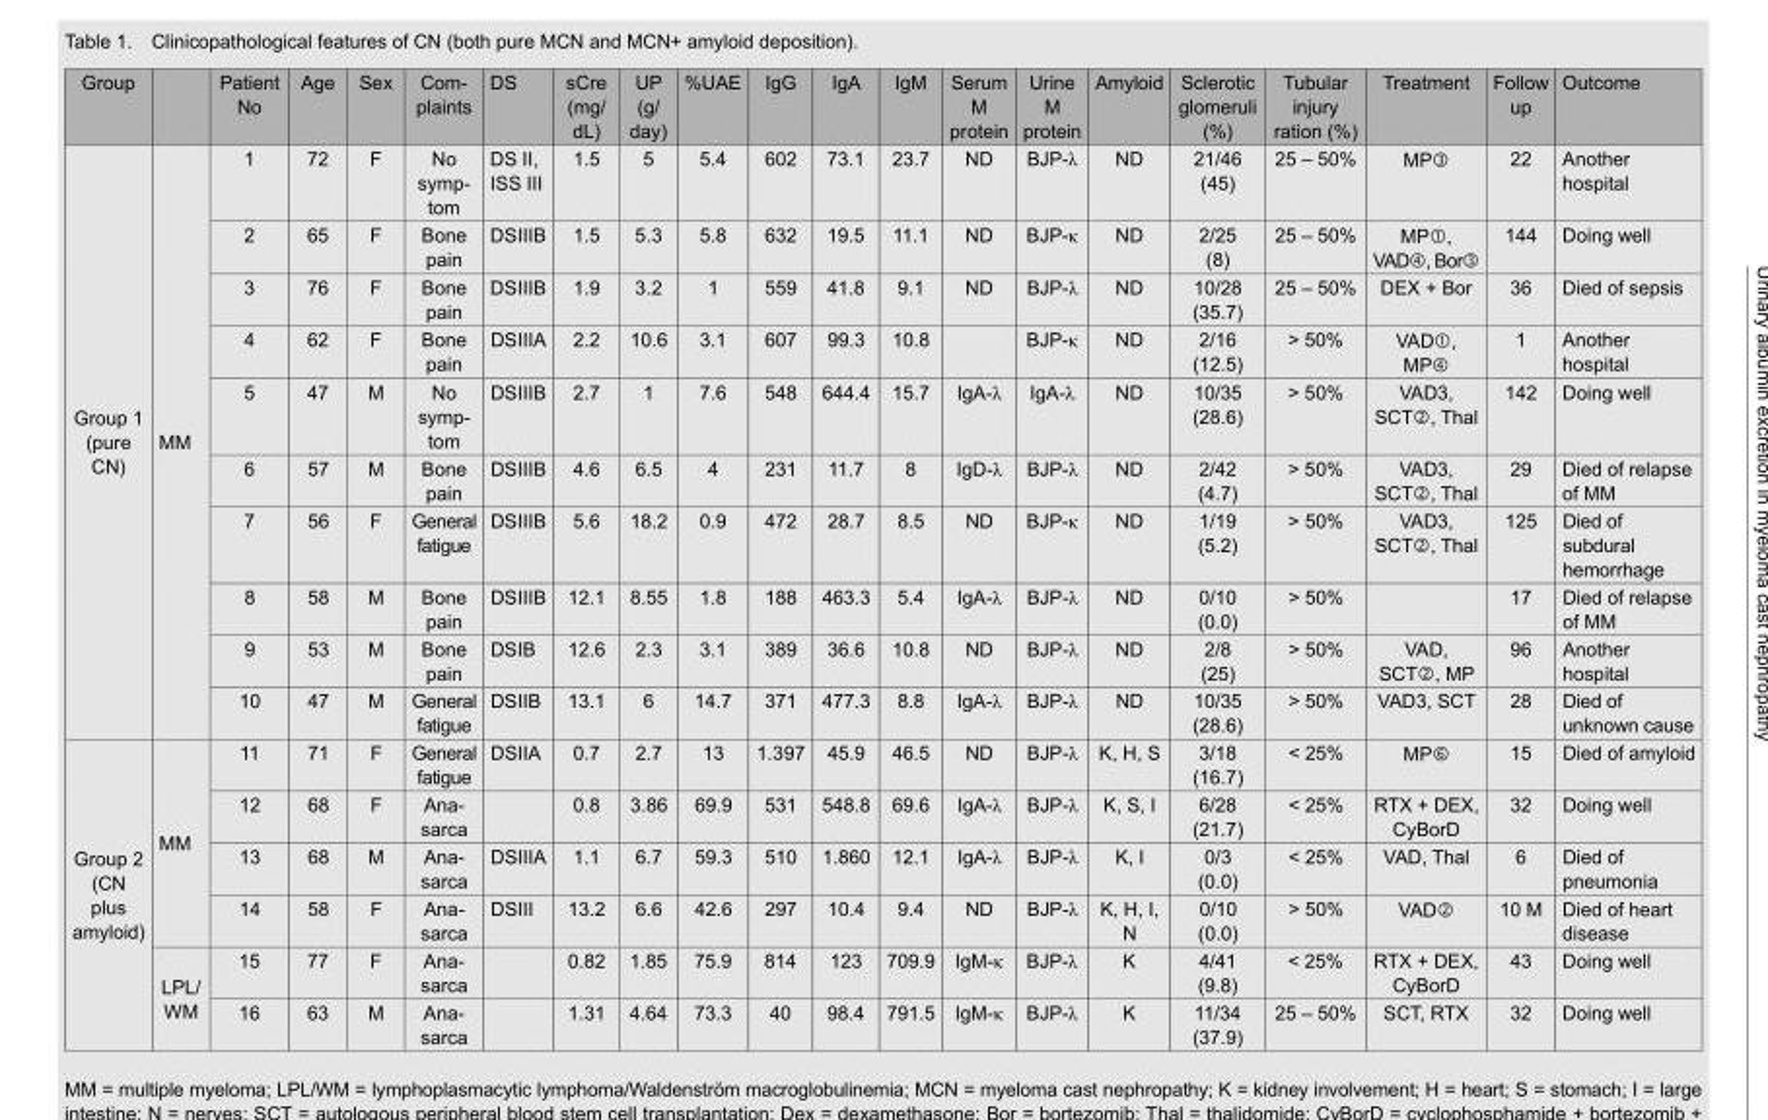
<table><thead><tr><td>Group</td><td></td><td>Patient No</td><td>Age</td><td>Sex</td><td>Com- plaints</td><td>DS</td><td>sCre (mg/ dL)</td><td>UP (g/ day)</td><td>%UAE</td><td>IgG</td><td>IgA</td><td>IgM</td><td>Serum M protein</td><td>Urine M protein</td><td>Amyloid</td><td>Sclerotic glomeruli (%)</td><td>Tubular injury ration (%)</td><td>Treatment</td><td>Follow up</td><td>Outcome</td></tr></thead><tbody><tr><td rowspan="10">Group 1 (pure CN)</td><td rowspan="10">MM</td><td>1</td><td>72</td><td>F</td><td>No symp- tom</td><td>DS II, ISS III</td><td>1.5</td><td>5</td><td>5.4</td><td>602</td><td>73.1</td><td>23.7</td><td>ND</td><td>BJP-λ</td><td>ND</td><td>21/46 (45)</td><td>25 – 50%</td><td>MP</td><td>22</td><td>Another hospital</td></tr><tr><td>2</td><td>65</td><td>F</td><td>Bone pain</td><td>DSIIIB</td><td>1.5</td><td>5.3</td><td>5.8</td><td>632</td><td>19.5</td><td>11.1</td><td>ND</td><td>BJP-κ</td><td>ND</td><td>2/25 (8)</td><td>25 – 50%</td><td>MP, VAD, Bor</td><td>144</td><td>Doing well</td></tr><tr><td>3</td><td>76</td><td>F</td><td>Bone pain</td><td>DSIIIB</td><td>1.9</td><td>3.2</td><td>1</td><td>559</td><td>41.8</td><td>9.1</td><td>ND</td><td>BJP-λ</td><td>ND</td><td>10/28 (35.7)</td><td>25 – 50%</td><td>DEX + Bor</td><td>36</td><td>Died of sepsis</td></tr><tr><td>4</td><td>62</td><td>F</td><td>Bone pain</td><td>DSIIIA</td><td>2.2</td><td>10.6</td><td>3.1</td><td>607</td><td>99.3</td><td>10.8</td><td></td><td>BJP-κ</td><td>ND</td><td>2/16 (12.5)</td><td>&gt; 50%</td><td>VAD, MP</td><td>1</td><td>Another hospital</td></tr><tr><td>5</td><td>47</td><td>M</td><td>No symp- tom</td><td>DSIIIB</td><td>2.7</td><td>1</td><td>7.6</td><td>548</td><td>644.4</td><td>15.7</td><td>IgA-λ</td><td>IgA-λ</td><td>ND</td><td>10/35 (28.6)</td><td>&gt; 50%</td><td>VAD3, SCT, Thal</td><td>142</td><td>Doing well</td></tr><tr><td>6</td><td>57</td><td>M</td><td>Bone pain</td><td>DSIIIB</td><td>4.6</td><td>6.5</td><td>4</td><td>231</td><td>11.7</td><td>8</td><td>IgD-λ</td><td>BJP-λ</td><td>ND</td><td>2/42 (4.7)</td><td>&gt; 50%</td><td>VAD3, SCT, Thal</td><td>29</td><td>Died of relapse of MM</td></tr><tr><td>7</td><td>56</td><td>F</td><td>General fatigue</td><td>DSIIIB</td><td>5.6</td><td>18.2</td><td>0.9</td><td>472</td><td>28.7</td><td>8.5</td><td>ND</td><td>BJP-κ</td><td>ND</td><td>1/19 (5.2)</td><td>&gt; 50%</td><td>VAD3, SCT, Thal</td><td>125</td><td>Died of subdural hemorrhage</td></tr><tr><td>8</td><td>58</td><td>M</td><td>Bone pain</td><td>DSIIIB</td><td>12.1</td><td>8.55</td><td>1.8</td><td>188</td><td>463.3</td><td>5.4</td><td>IgA-λ</td><td>BJP-λ</td><td>ND</td><td>0/10 (0.0)</td><td>&gt; 50%</td><td></td><td>17</td><td>Died of relapse of MM</td></tr><tr><td>9</td><td>53</td><td>M</td><td>Bone pain</td><td>DSIB</td><td>12.6</td><td>2.3</td><td>3.1</td><td>389</td><td>36.6</td><td>10.8</td><td>ND</td><td>BJP-λ</td><td>ND</td><td>2/8 (25)</td><td>&gt; 50%</td><td>VAD, SCT, MP</td><td>96</td><td>Another hospital</td></tr><tr><td>10</td><td>47</td><td>M</td><td>General fatigue</td><td>DSIIB</td><td>13.1</td><td>6</td><td>14.7</td><td>371</td><td>477.3</td><td>8.8</td><td>IgA-λ</td><td>BJP-λ</td><td>ND</td><td>10/35 (28.6)</td><td>&gt; 50%</td><td>VAD3, SCT</td><td>28</td><td>Died of unknown cause</td></tr><tr><td rowspan="6">Group 2 (CN plus amyloid)</td><td rowspan="4">MM</td><td>11</td><td>71</td><td>F</td><td>General fatigue</td><td>DSIIA</td><td>0.7</td><td>2.7</td><td>13</td><td>1.397</td><td>45.9</td><td>46.5</td><td>ND</td><td>BJP-λ</td><td>K, H, S</td><td>3/18 (16.7)</td><td>&lt; 25%</td><td>MP</td><td>15</td><td>Died of amyloid</td></tr><tr><td>12</td><td>68</td><td>F</td><td>Ana- sarca</td><td></td><td>0.8</td><td>3.86</td><td>69.9</td><td>531</td><td>548.8</td><td>69.6</td><td>IgA-λ</td><td>BJP-λ</td><td>K, S, I</td><td>6/28 (21.7)</td><td>&lt; 25%</td><td>RTX + DEX, CyBorD</td><td>32</td><td>Doing well</td></tr><tr><td>13</td><td>68</td><td>M</td><td>Ana- sarca</td><td>DSIIIA</td><td>1.1</td><td>6.7</td><td>59.3</td><td>510</td><td>1.860</td><td>12.1</td><td>IgA-λ</td><td>BJP-λ</td><td>K, I</td><td>0/3 (0.0)</td><td>&lt; 25%</td><td>VAD, Thal</td><td>6</td><td>Died of pneumonia</td></tr><tr><td>14</td><td>58</td><td>F</td><td>Ana- sarca</td><td>DSIII</td><td>13.2</td><td>6.6</td><td>42.6</td><td>297</td><td>10.4</td><td>9.4</td><td>ND</td><td>BJP-λ</td><td>K, H, I, N</td><td>0/10 (0.0)</td><td>&gt; 50%</td><td>VAD</td><td>10 M</td><td>Died of heart disease</td></tr><tr><td rowspan="2">LPL/ WM</td><td>15</td><td>77</td><td>F</td><td>Ana- sarca</td><td></td><td>0.82</td><td>1.85</td><td>75.9</td><td>814</td><td>123</td><td>709.9</td><td>IgM-κ</td><td>BJP-λ</td><td>K</td><td>4/41 (9.8)</td><td>&lt; 25%</td><td>RTX + DEX, CyBorD</td><td>43</td><td>Doing well</td></tr><tr><td>16</td><td>63</td><td>M</td><td>Ana- sarca</td><td></td><td>1.31</td><td>4.64</td><td>73.3</td><td>40</td><td>98.4</td><td>791.5</td><td>IgM-κ</td><td>BJP-λ</td><td>K</td><td>11/34 (37.9)</td><td>25 – 50%</td><td>SCT, RTX</td><td>32</td><td>Doing well</td></tr></tbody></table>